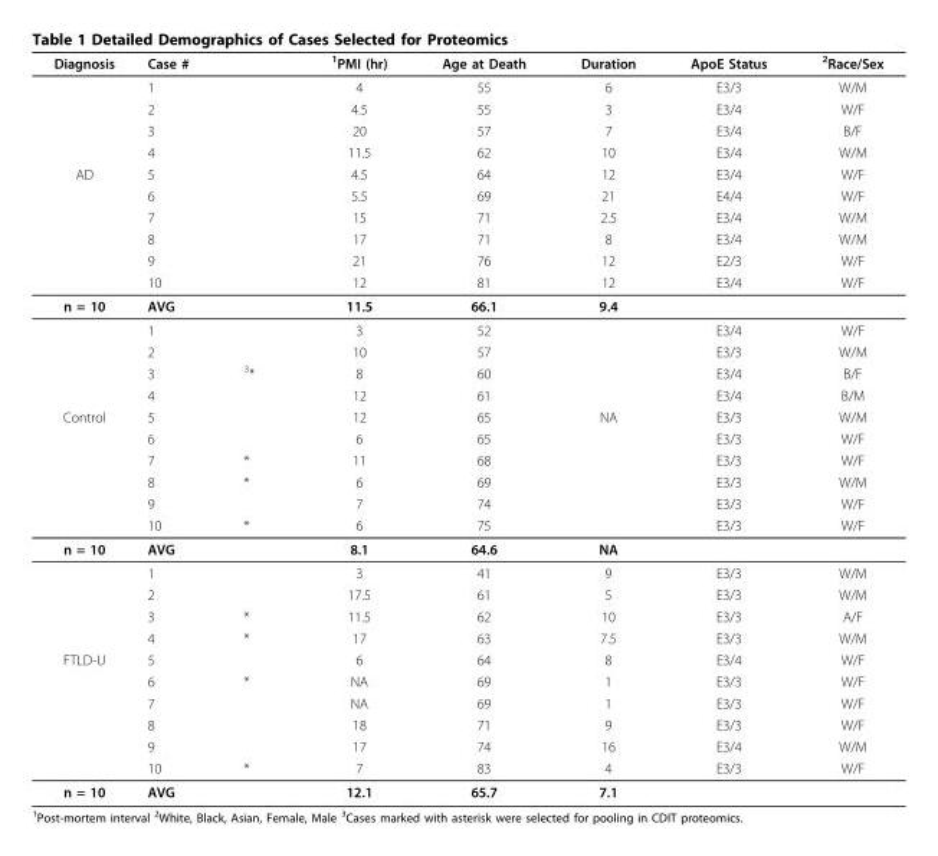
<table><thead><tr><td>Diagnosis</td><td>Case #</td><td></td><td><sup>1</sup>PMI (hr)</td><td>Age at Death</td><td>Duration</td><td>ApoE Status</td><td><sup>2</sup>Race/Sex</td></tr></thead><tbody><tr><td></td><td>1</td><td></td><td>4</td><td>55</td><td>6</td><td>E3/3</td><td>W/M</td></tr><tr><td></td><td>2</td><td></td><td>4.5</td><td>55</td><td>3</td><td>E3/4</td><td>W/F</td></tr><tr><td></td><td>3</td><td></td><td>20</td><td>57</td><td>7</td><td>E3/4</td><td>B/F</td></tr><tr><td></td><td>4</td><td></td><td>11.5</td><td>62</td><td>10</td><td>E3/4</td><td>W/M</td></tr><tr><td rowspan="6">AD</td><td>5</td><td></td><td>4.5</td><td>64</td><td>12</td><td>E3/4</td><td>W/F</td></tr><tr><td>6</td><td></td><td>5.5</td><td>69</td><td>21</td><td>E4/4</td><td>W/F</td></tr><tr><td>7</td><td></td><td>15</td><td>71</td><td>2.5</td><td>E3/4</td><td>W/M</td></tr><tr><td>8</td><td></td><td>17</td><td>71</td><td>8</td><td>E3/4</td><td>W/M</td></tr><tr><td>9</td><td></td><td>21</td><td>76</td><td>12</td><td>E2/3</td><td>W/F</td></tr><tr><td>10</td><td></td><td>12</td><td>81</td><td>12</td><td>E3/4</td><td>W/F</td></tr><tr><td rowspan="5">n = 10</td><td>AVG</td><td></td><td>11.5</td><td>66.1</td><td>9.4</td><td></td><td></td></tr><tr><td>1</td><td></td><td>3</td><td>52</td><td></td><td>E3/4</td><td>W/F</td></tr><tr><td>2</td><td></td><td>10</td><td>57</td><td></td><td>E3/3</td><td>W/M</td></tr><tr><td>3</td><td><sup>3</sup>*</td><td>8</td><td>60</td><td></td><td>E3/4</td><td>B/F</td></tr><tr><td>4</td><td></td><td>12</td><td>61</td><td></td><td>E3/4</td><td>B/M</td></tr><tr><td rowspan="6">Control</td><td>5</td><td></td><td>12</td><td>65</td><td>NA</td><td>E3/3</td><td>W/M</td></tr><tr><td>6</td><td></td><td>6</td><td>65</td><td></td><td>E3/3</td><td>W/F</td></tr><tr><td>7</td><td>*</td><td>11</td><td>68</td><td></td><td>E3/3</td><td>W/F</td></tr><tr><td>8</td><td>*</td><td>6</td><td>69</td><td></td><td>E3/3</td><td>W/M</td></tr><tr><td>9</td><td></td><td>7</td><td>74</td><td></td><td>E3/3</td><td>W/F</td></tr><tr><td>10</td><td>*</td><td>6</td><td>75</td><td></td><td>E3/3</td><td>W/F</td></tr><tr><td rowspan="5">n = 10</td><td>AVG</td><td></td><td>8.1</td><td>64.6</td><td>NA</td><td></td><td></td></tr><tr><td>1</td><td></td><td>3</td><td>41</td><td>9</td><td>E3/3</td><td>W/M</td></tr><tr><td>2</td><td></td><td>17.5</td><td>61</td><td>5</td><td>E3/3</td><td>W/M</td></tr><tr><td>3</td><td>*</td><td>11.5</td><td>62</td><td>10</td><td>E3/3</td><td>A/F</td></tr><tr><td>4</td><td>*</td><td>17</td><td>63</td><td>7.5</td><td>E3/3</td><td>W/M</td></tr><tr><td rowspan="6">FTLD-U</td><td>5</td><td></td><td>6</td><td>64</td><td>8</td><td>E3/4</td><td>W/F</td></tr><tr><td>6</td><td>*</td><td>NA</td><td>69</td><td>1</td><td>E3/3</td><td>W/F</td></tr><tr><td>7</td><td></td><td>NA</td><td>69</td><td>1</td><td>E3/3</td><td>W/F</td></tr><tr><td>8</td><td></td><td>18</td><td>71</td><td>9</td><td>E3/3</td><td>W/F</td></tr><tr><td>9</td><td></td><td>17</td><td>74</td><td>16</td><td>E3/4</td><td>W/M</td></tr><tr><td>10</td><td>*</td><td>7</td><td>83</td><td>4</td><td>E3/3</td><td>W/F</td></tr><tr><td>n = 10</td><td>AVG</td><td></td><td>12.1</td><td>65.7</td><td>7.1</td><td></td><td></td></tr></tbody></table>